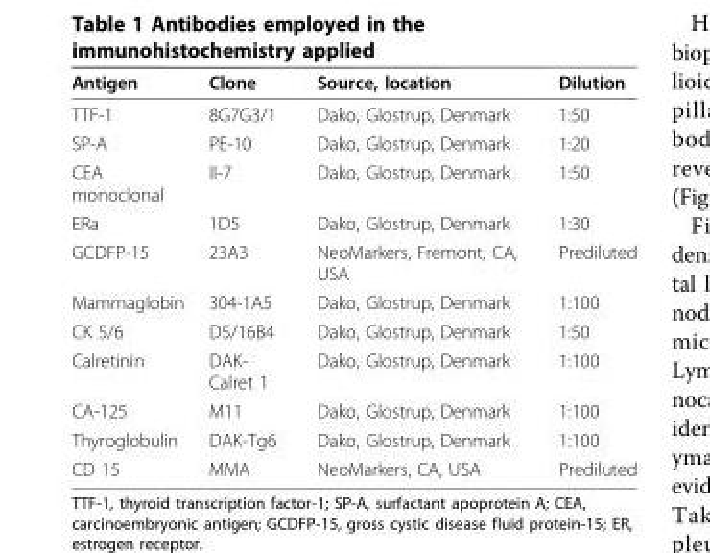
<table><thead><tr><td>Antigen</td><td>Clone</td><td>Source, location</td><td>Dilution</td></tr></thead><tbody><tr><td>TTF-1</td><td>8G7G3/1</td><td>Dako, Glostrup, Denmark</td><td>1:50</td></tr><tr><td>SP-A</td><td>PE-10</td><td>Dako, Glostrup, Denmark</td><td>1:20</td></tr><tr><td>CEA monoclonal</td><td>II-7</td><td>Dako, Glostrup, Denmark</td><td>1:50</td></tr><tr><td>ERa</td><td>1D5</td><td>Dako, Glostrup, Denmark</td><td>1:30</td></tr><tr><td>GCDFP-15</td><td>23A3</td><td>NeoMarkers, Fremont, CA, USA</td><td>Prediluted</td></tr><tr><td>Mammaglobin</td><td>304-1A5</td><td>Dako, Glostrup, Denmark</td><td>1:100</td></tr><tr><td>CK 5/6</td><td>D5/16B4</td><td>Dako, Glostrup, Denmark</td><td>1:50</td></tr><tr><td>Calretinin</td><td>DAK- Calret 1</td><td>Dako, Glostrup, Denmark</td><td>1:100</td></tr><tr><td>CA-125</td><td>M11</td><td>Dako, Glostrup, Denmark</td><td>1:100</td></tr><tr><td>Thyroglobulin</td><td>DAK-Tg6</td><td>Dako, Glostrup, Denmark</td><td>1:100</td></tr><tr><td>CD 15</td><td>MMA</td><td>NeoMarkers, CA, USA</td><td>Prediluted</td></tr></tbody></table>